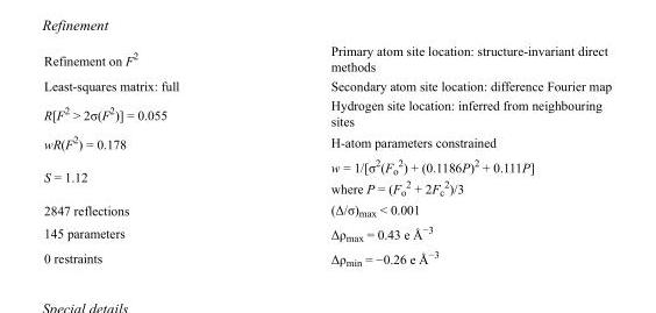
<table><tbody><tr><td>Refinement on F<sup>2</sup></td><td>Primary atom site location: structure-invariant direct methods</td></tr><tr><td>Least-squares matrix: full</td><td>Secondary atom site location: difference Fourier map</td></tr><tr><td>R[F<sup>2</sup> &gt; 2σ(F<sup>2</sup>)] = 0.055</td><td>Hydrogen site location: inferred from neighbouring sites</td></tr><tr><td>wR(F<sup>2</sup>) = 0.178</td><td>H-atom parameters constrained</td></tr><tr><td>S = 1.12</td><td>w = 1/[σ<sup>2</sup>(F<sub>o</sub> <sup>2</sup>) + (0.1186P)<sup>2</sup> + 0.111P] where P = (F<sub>o</sub> <sup>2</sup> + 2F<sub>c</sub> <sup>2</sup>)/3</td></tr><tr><td>2847 reflections</td><td>(Δ/σ)<sub>max</sub> &lt; 0.001</td></tr><tr><td>145 parameters</td><td>Δρ<sub>max</sub> = 0.43 e Å<sup>−3</sup></td></tr><tr><td>0 restraints</td><td>Δρ<sub>min</sub> = −0.26 e Å<sup>−3</sup></td></tr></tbody></table>